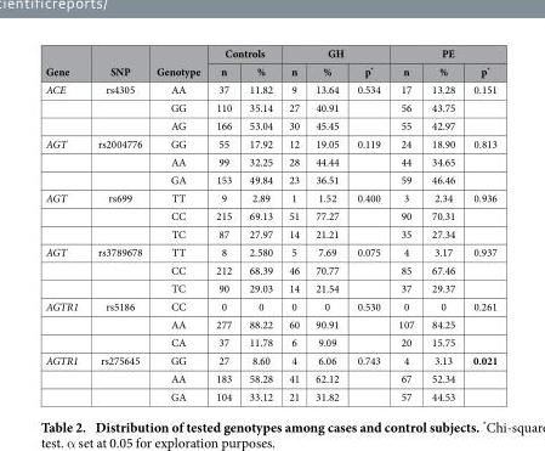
<table><thead><tr><td rowspan="2">Gene</td><td rowspan="2">SNP</td><td rowspan="2">Genotype</td><td colspan="2">Controls</td><td colspan="3">GH</td><td colspan="3">PE</td></tr><tr><td>n</td><td>%</td><td>n</td><td>%</td><td>p*</td><td>n</td><td>%</td><td>p*</td></tr></thead><tbody><tr><td rowspan="3">ACE</td><td>rs4305</td><td>AA</td><td>37</td><td>11.82</td><td>9</td><td>13.64</td><td>0.534</td><td>17</td><td>13.28</td><td>0.151</td></tr><tr><td></td><td>GG</td><td>110</td><td>35.14</td><td>27</td><td>40.91</td><td></td><td>56</td><td>43.75</td><td></td></tr><tr><td></td><td>AG</td><td>166</td><td>53.04</td><td>30</td><td>45.45</td><td></td><td>55</td><td>42.97</td><td></td></tr><tr><td rowspan="3">AGT</td><td>rs2004776</td><td>GG</td><td>55</td><td>17.92</td><td>12</td><td>19.05</td><td>0.119</td><td>24</td><td>18.90</td><td>0.813</td></tr><tr><td></td><td>AA</td><td>99</td><td>32.25</td><td>28</td><td>44.44</td><td></td><td>44</td><td>34.65</td><td></td></tr><tr><td></td><td>GA</td><td>153</td><td>49.84</td><td>23</td><td>36.51</td><td></td><td>59</td><td>46.46</td><td></td></tr><tr><td rowspan="3">AGT</td><td>rs699</td><td>TT</td><td>9</td><td>2.89</td><td>1</td><td>1.52</td><td>0.400</td><td>3</td><td>2.34</td><td>0.936</td></tr><tr><td></td><td>CC</td><td>215</td><td>69.13</td><td>51</td><td>77.27</td><td></td><td>90</td><td>70.31</td><td></td></tr><tr><td></td><td>TC</td><td>87</td><td>27.97</td><td>14</td><td>21.21</td><td></td><td>35</td><td>27.34</td><td></td></tr><tr><td rowspan="3">AGT</td><td>rs3789678</td><td>TT</td><td>8</td><td>2.580</td><td>5</td><td>7.69</td><td>0.075</td><td>4</td><td>3.17</td><td>0.937</td></tr><tr><td></td><td>CC</td><td>212</td><td>68.39</td><td>46</td><td>70.77</td><td></td><td>85</td><td>67.46</td><td></td></tr><tr><td></td><td>TC</td><td>90</td><td>29.03</td><td>14</td><td>21.54</td><td></td><td>37</td><td>29.37</td><td></td></tr><tr><td rowspan="3">AGTR1</td><td>rs5186</td><td>CC</td><td>0</td><td>0</td><td>0</td><td>0</td><td>0.530</td><td>0</td><td>0</td><td>0.261</td></tr><tr><td></td><td>AA</td><td>277</td><td>88.22</td><td>60</td><td>90.91</td><td></td><td>107</td><td>84.25</td><td></td></tr><tr><td></td><td>CA</td><td>37</td><td>11.78</td><td>6</td><td>9.09</td><td></td><td>20</td><td>15.75</td><td></td></tr><tr><td rowspan="3">AGTR1</td><td>rs275645</td><td>GG</td><td>27</td><td>8.60</td><td>4</td><td>6.06</td><td>0.743</td><td>4</td><td>3.13</td><td>0.021</td></tr><tr><td></td><td>AA</td><td>183</td><td>58.28</td><td>41</td><td>62.12</td><td></td><td>67</td><td>52.34</td><td></td></tr><tr><td></td><td>GA</td><td>104</td><td>33.12</td><td>21</td><td>31.82</td><td></td><td>57</td><td>44.53</td><td></td></tr></tbody></table>